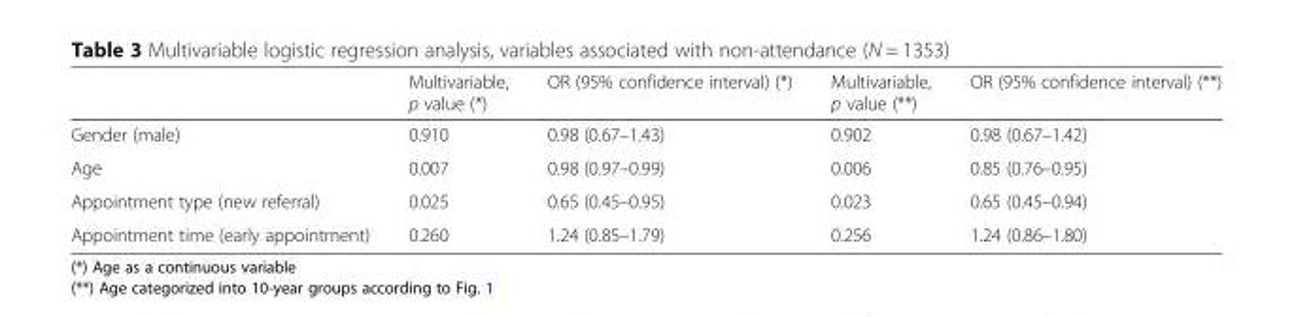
<table><thead><tr><td></td><td>Multivariable, p value (*)</td><td>OR (95% confidence interval) (*)</td><td>Multivariable, p value (**)</td><td>OR (95% confidence interval) (**)</td></tr></thead><tbody><tr><td>Gender (male)</td><td>0.910</td><td>0.98 (0.67–1.43)</td><td>0.902</td><td>0.98 (0.67–1.42)</td></tr><tr><td>Age</td><td>0.007</td><td>0.98 (0.97–0.99)</td><td>0.006</td><td>0.85 (0.76–0.95)</td></tr><tr><td>Appointment type (new referral)</td><td>0.025</td><td>0.65 (0.45–0.95)</td><td>0.023</td><td>0.65 (0.45–0.94)</td></tr><tr><td>Appointment time (early appointment)</td><td>0.260</td><td>1.24 (0.85–1.79)</td><td>0.256</td><td>1.24 (0.86–1.80)</td></tr></tbody></table>